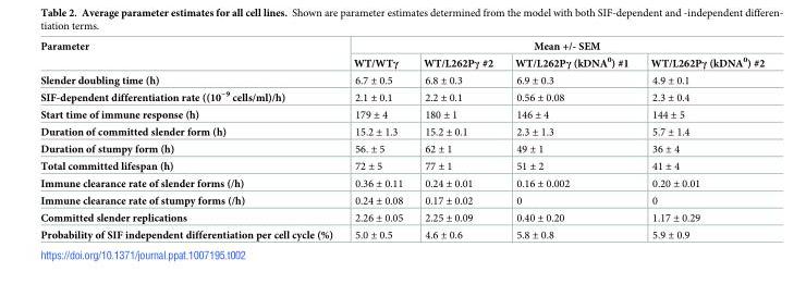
<table><thead><tr><td rowspan="2">Parameter</td><td colspan="4">Mean +/- SEM</td></tr><tr><td>WT/WTγ</td><td>WT/L262Pγ #2</td><td>WT/L262Pγ (kDNA<sup>0</sup>) #1</td><td>WT/L262Pγ (kDNA<sup>0</sup>) #2</td></tr></thead><tbody><tr><td>Slender doubling time (h)</td><td>6.7 ± 0.5</td><td>6.8 ± 0.3</td><td>6.9 ± 0.3</td><td>4.9 ± 0.1</td></tr><tr><td>SIF-dependent differentiation rate ((10<sup>−9</sup> cells/ml)/h)</td><td>2.1 ± 0.1</td><td>2.2 ± 0.1</td><td>0.56 ± 0.08</td><td>2.3 ± 0.4</td></tr><tr><td>Start time of immune response (h)</td><td>179 ± 4</td><td>180 ± 1</td><td>146 ± 4</td><td>144 ± 5</td></tr><tr><td>Duration of committed slender form (h)</td><td>15.2 ± 1.3</td><td>15.2 ± 0.1</td><td>2.3 ± 1.3</td><td>5.7 ± 1.4</td></tr><tr><td>Duration of stumpy form (h)</td><td>56. ± 5</td><td>62 ± 1</td><td>49 ± 1</td><td>36 ± 4</td></tr><tr><td>Total committed lifespan (h)</td><td>72 ± 5</td><td>77 ± 1</td><td>51 ± 2</td><td>41 ± 4</td></tr><tr><td>Immune clearance rate of slender forms (/h)</td><td>0.36 ± 0.11</td><td>0.24 ± 0.01</td><td>0.16 ± 0.002</td><td>0.20 ± 0.01</td></tr><tr><td>Immune clearance rate of stumpy forms (/h)</td><td>0.24 ± 0.08</td><td>0.17 ± 0.02</td><td>0</td><td>0</td></tr><tr><td>Committed slender replications</td><td>2.26 ± 0.05</td><td>2.25 ± 0.09</td><td>0.40 ± 0.20</td><td>1.17 ± 0.29</td></tr><tr><td>Probability of SIF independent differentiation per cell cycle (%)</td><td>5.0 ± 0.5</td><td>4.6 ± 0.6</td><td>5.8 ± 0.8</td><td>5.9 ± 0.9</td></tr></tbody></table>